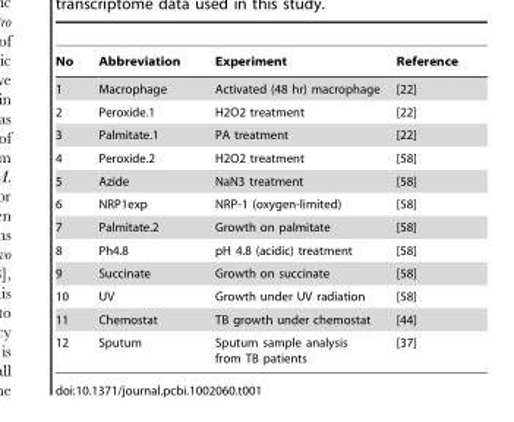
<table><thead><tr><td>No</td><td>Abbreviation</td><td>Experiment</td><td>Reference</td></tr></thead><tbody><tr><td>1</td><td>Macrophage</td><td>Activated (48 hr) macrophage</td><td>[22]</td></tr><tr><td>2</td><td>Peroxide.1</td><td>H2O2 treatment</td><td>[22]</td></tr><tr><td>3</td><td>Palmitate.1</td><td>PA treatment</td><td>[22]</td></tr><tr><td>4</td><td>Peroxide.2</td><td>H2O2 treatment</td><td>[58]</td></tr><tr><td>5</td><td>Azide</td><td>NaN3 treatment</td><td>[58]</td></tr><tr><td>6</td><td>NRP1exp</td><td>NRP-1 (oxygen-limited)</td><td>[58]</td></tr><tr><td>7</td><td>Palmitate.2</td><td>Growth on palmitate</td><td>[58]</td></tr><tr><td>8</td><td>Ph4.8</td><td>pH 4.8 (acidic) treatment</td><td>[58]</td></tr><tr><td>9</td><td>Succinate</td><td>Growth on succinate</td><td>[58]</td></tr><tr><td>10</td><td>UV</td><td>Growth under UV radiation</td><td>[58]</td></tr><tr><td>11</td><td>Chemostat</td><td>TB growth under chemostat</td><td>[44]</td></tr><tr><td>12</td><td>Sputum</td><td>Sputum sample analysis from TB patients</td><td>[37]</td></tr></tbody></table>